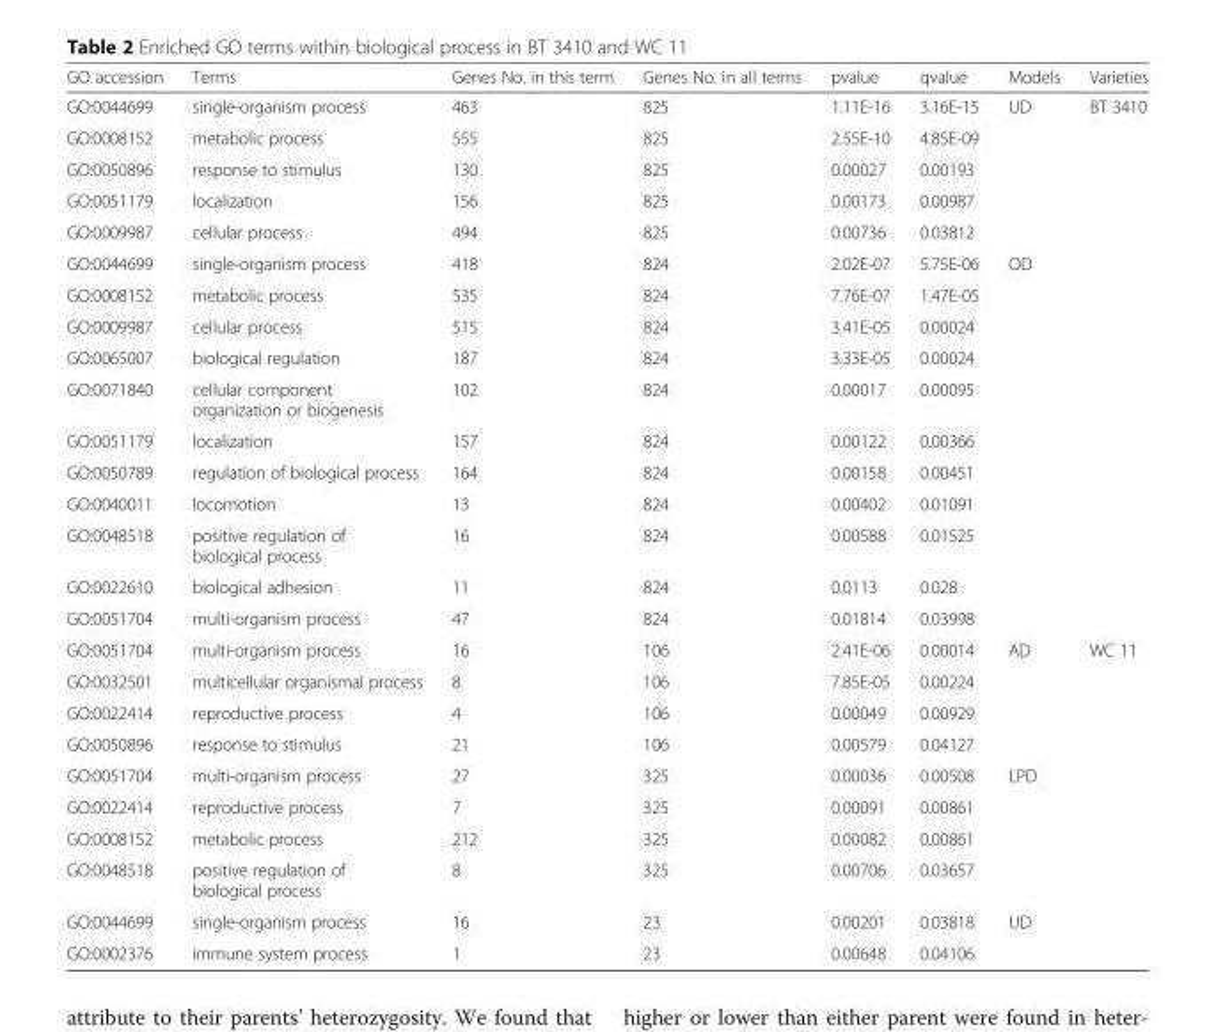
<table><thead><tr><td>GO accession</td><td>Terms</td><td>Genes No. in this term</td><td>Genes No. in all terms</td><td>pvalue</td><td>qvalue</td><td>Models</td><td>Varieties</td></tr></thead><tbody><tr><td>GO:0044699</td><td>single-organism process</td><td>463</td><td>825</td><td>1.11E-16</td><td>3.16E-15</td><td rowspan="5">UD</td><td rowspan="16">BT 3410</td></tr><tr><td>GO:0008152</td><td>metabolic process</td><td>555</td><td>825</td><td>2.55E-10</td><td>4.85E-09</td></tr><tr><td>GO:0050896</td><td>response to stimulus</td><td>130</td><td>825</td><td>0.00027</td><td>0.00193</td></tr><tr><td>GO:0051179</td><td>localization</td><td>156</td><td>825</td><td>0.00173</td><td>0.00987</td></tr><tr><td>GO:0009987</td><td>cellular process</td><td>494</td><td>825</td><td>0.00736</td><td>0.03812</td></tr><tr><td>GO:0044699</td><td>single-organism process</td><td>418</td><td>824</td><td>2.02E-07</td><td>5.75E-06</td><td rowspan="11">OD</td></tr><tr><td>GO:0008152</td><td>metabolic process</td><td>535</td><td>824</td><td>7.76E-07</td><td>1.47E-05</td></tr><tr><td>GO:0009987</td><td>cellular process</td><td>515</td><td>824</td><td>3.41E-05</td><td>0.00024</td></tr><tr><td>GO:0065007</td><td>biological regulation</td><td>187</td><td>824</td><td>3.33E-05</td><td>0.00024</td></tr><tr><td>GO:0071840</td><td>cellular component organization or biogenesis</td><td>102</td><td>824</td><td>0.00017</td><td>0.00095</td></tr><tr><td>GO:0051179</td><td>localization</td><td>157</td><td>824</td><td>0.00122</td><td>0.00366</td></tr><tr><td>GO:0050789</td><td>regulation of biological process</td><td>164</td><td>824</td><td>0.00158</td><td>0.00451</td></tr><tr><td>GO:0040011</td><td>locomotion</td><td>13</td><td>824</td><td>0.00402</td><td>0.01091</td></tr><tr><td>GO:0048518</td><td>positive regulation of biological process</td><td>16</td><td>824</td><td>0.00588</td><td>0.01525</td></tr><tr><td>GO:0022610</td><td>biological adhesion</td><td>11</td><td>824</td><td>0.0113</td><td>0.028</td></tr><tr><td>GO:0051704</td><td>multi-organism process</td><td>47</td><td>824</td><td>0.01814</td><td>0.03998</td></tr><tr><td>GO:0051704</td><td>multi-organism process</td><td>16</td><td>106</td><td>2.41E-06</td><td>0.00014</td><td rowspan="4">AD</td><td rowspan="10">WC 11</td></tr><tr><td>GO:0032501</td><td>multicellular organismal process</td><td>8</td><td>106</td><td>7.85E-05</td><td>0.00224</td></tr><tr><td>GO:0022414</td><td>reproductive process</td><td>4</td><td>106</td><td>0.00049</td><td>0.00929</td></tr><tr><td>GO:0050896</td><td>response to stimulus</td><td>21</td><td>106</td><td>0.00579</td><td>0.04127</td></tr><tr><td>GO:0051704</td><td>multi-organism process</td><td>27</td><td>325</td><td>0.00036</td><td>0.00508</td><td rowspan="4">LPD</td></tr><tr><td>GO:0022414</td><td>reproductive process</td><td>7</td><td>325</td><td>0.00091</td><td>0.00861</td></tr><tr><td>GO:0008152</td><td>metabolic process</td><td>212</td><td>325</td><td>0.00082</td><td>0.00861</td></tr><tr><td>GO:0048518</td><td>positive regulation of biological process</td><td>8</td><td>325</td><td>0.00706</td><td>0.03657</td></tr><tr><td>GO:0044699</td><td>single-organism process</td><td>16</td><td>23</td><td>0.00201</td><td>0.03818</td><td rowspan="2">UD</td></tr><tr><td>GO:0002376</td><td>immune system process</td><td>1</td><td>23</td><td>0.00648</td><td>0.04106</td></tr></tbody></table>